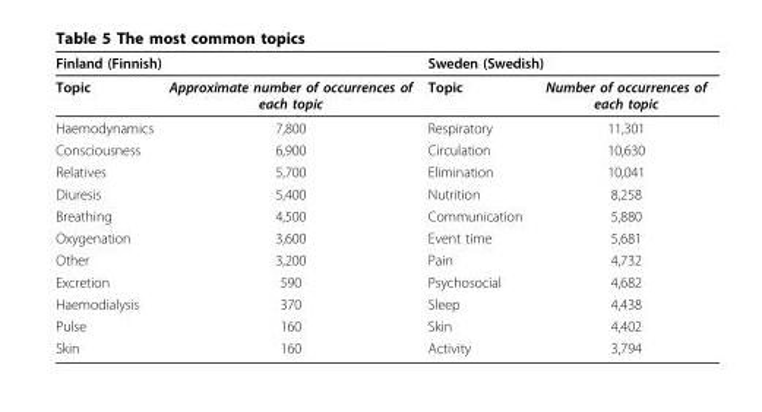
<table><thead><tr><td colspan="2">Finland (Finnish)</td><td colspan="2">Sweden (Swedish)</td></tr><tr><td>Topic</td><td>Approximate number of occurrences of each topic</td><td>Topic</td><td>Number of occurrences of each topic</td></tr></thead><tbody><tr><td>Haemodynamics</td><td>7,800</td><td>Respiratory</td><td>11,301</td></tr><tr><td>Consciousness</td><td>6,900</td><td>Circulation</td><td>10,630</td></tr><tr><td>Relatives</td><td>5,700</td><td>Elimination</td><td>10,041</td></tr><tr><td>Diuresis</td><td>5,400</td><td>Nutrition</td><td>8,258</td></tr><tr><td>Breathing</td><td>4,500</td><td>Communication</td><td>5,880</td></tr><tr><td>Oxygenation</td><td>3,600</td><td>Event time</td><td>5,681</td></tr><tr><td>Other</td><td>3,200</td><td>Pain</td><td>4,732</td></tr><tr><td>Excretion</td><td>590</td><td>Psychosocial</td><td>4,682</td></tr><tr><td>Haemodialysis</td><td>370</td><td>Sleep</td><td>4,438</td></tr><tr><td>Pulse</td><td>160</td><td>Skin</td><td>4,402</td></tr><tr><td>Skin</td><td>160</td><td>Activity</td><td>3,794</td></tr></tbody></table>